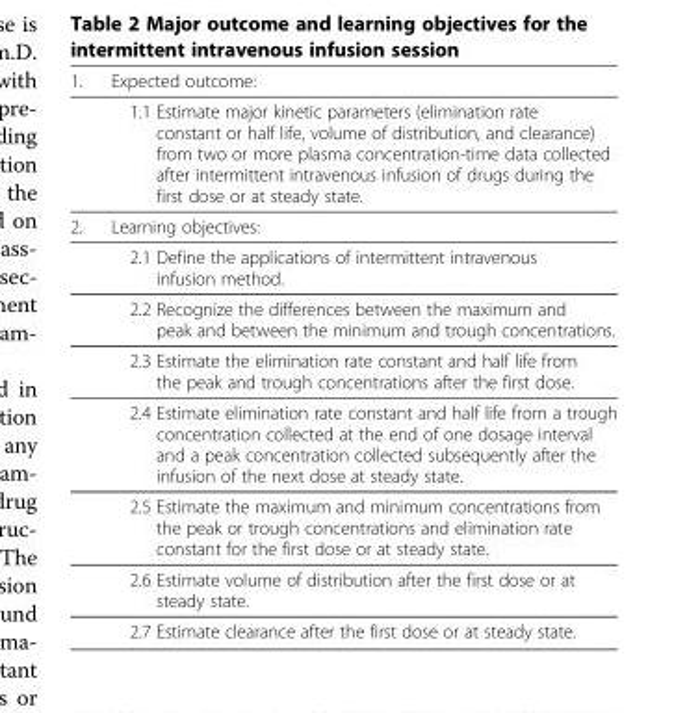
<table><thead><tr><td>1.</td><td>Expected outcome:</td></tr></thead><tbody><tr><td></td><td>1.1 Estimate major kinetic parameters (elimination rate constant or half life, volume of distribution, and clearance) from two or more plasma concentration-time data collected after intermittent intravenous infusion of drugs during the first dose or at steady state.</td></tr><tr><td rowspan="8">2.</td><td>Learning objectives:</td></tr><tr><td>2.1 Define the applications of intermittent intravenous infusion method.</td></tr><tr><td>2.2 Recognize the differences between the maximum and peak and between the minimum and trough concentrations.</td></tr><tr><td>2.3 Estimate the elimination rate constant and half life from the peak and trough concentrations after the first dose.</td></tr><tr><td>2.4 Estimate elimination rate constant and half life from a trough concentration collected at the end of one dosage interval and a peak concentration collected subsequently after the infusion of the next dose at steady state.</td></tr><tr><td>2.5 Estimate the maximum and minimum concentrations from the peak or trough concentrations and elimination rate constant for the first dose or at steady state.</td></tr><tr><td>2.6 Estimate volume of distribution after the first dose or at steady state.</td></tr><tr><td>2.7 Estimate clearance after the first dose or at steady state.</td></tr></tbody></table>